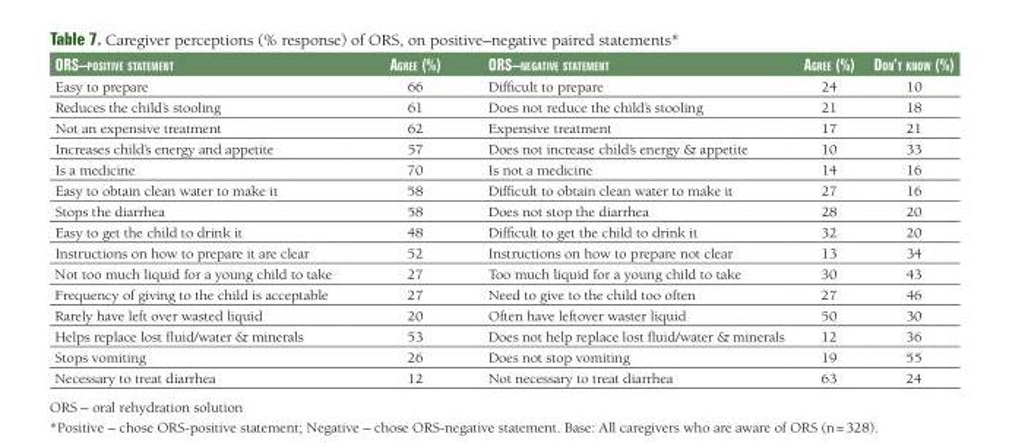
<table><thead><tr><td>orS–PoSitiVe Statement</td><td>agree (%)</td><td>orS–negatiVe Statement</td><td>agree (%)</td><td>don’t know (%)</td></tr></thead><tbody><tr><td>Easy to prepare</td><td>66</td><td>Difficult to prepare</td><td>24</td><td>10</td></tr><tr><td>Reduces the child’s stooling</td><td>61</td><td>Does not reduce the child’s stooling</td><td>21</td><td>18</td></tr><tr><td>Not an expensive treatment</td><td>62</td><td>Expensive treatment</td><td>17</td><td>21</td></tr><tr><td>Increases child’s energy and appetite</td><td>57</td><td>Does not increase child’s energy &amp; appetite</td><td>10</td><td>33</td></tr><tr><td>Is a medicine</td><td>70</td><td>Is not a medicine</td><td>14</td><td>16</td></tr><tr><td>Easy to obtain clean water to make it</td><td>58</td><td>Difficult to obtain clean water to make it</td><td>27</td><td>16</td></tr><tr><td>Stops the diarrhea</td><td>58</td><td>Does not stop the diarrhea</td><td>28</td><td>20</td></tr><tr><td>Easy to get the child to drink it</td><td>48</td><td>Difficult to get the child to drink it</td><td>32</td><td>20</td></tr><tr><td>Instructions on how to prepare it are clear</td><td>52</td><td>Instructions on how to prepare not clear</td><td>13</td><td>34</td></tr><tr><td>Not too much liquid for a young child to take</td><td>27</td><td>Too much liquid for a young child to take</td><td>30</td><td>43</td></tr><tr><td>Frequency of giving to the child is acceptable</td><td>27</td><td>Need to give to the child too often</td><td>27</td><td>46</td></tr><tr><td>Rarely have left over wasted liquid</td><td>20</td><td>Often have leftover waster liquid</td><td>50</td><td>30</td></tr><tr><td>Helps replace lost fluid/water &amp; minerals</td><td>53</td><td>Does not help replace lost fluid/water &amp; minerals</td><td>12</td><td>36</td></tr><tr><td>Stops vomiting</td><td>26</td><td>Does not stop vomiting</td><td>19</td><td>55</td></tr><tr><td>Necessary to treat diarrhea</td><td>12</td><td>Not necessary to treat diarrhea</td><td>63</td><td>24</td></tr></tbody></table>